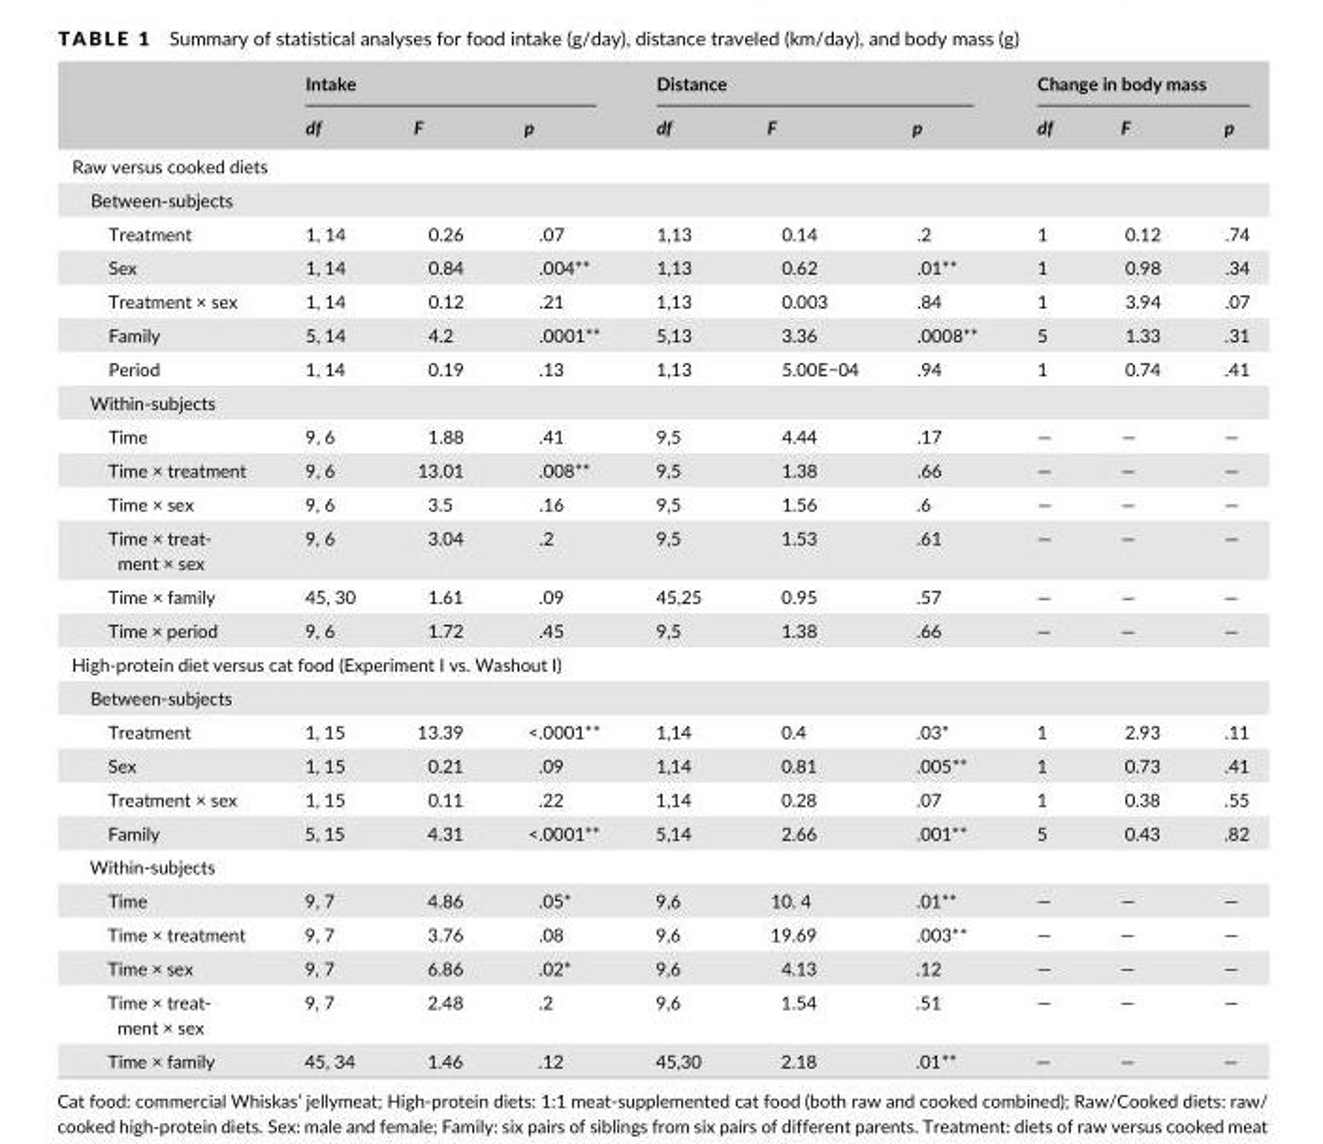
<table><thead><tr><td rowspan="2"></td><td colspan="3">Intake</td><td colspan="3">Distance</td><td colspan="3">Change in body mass</td></tr><tr><td>df</td><td>F</td><td>p</td><td>df</td><td>F</td><td>p</td><td>df</td><td>F</td><td>p</td></tr></thead><tbody><tr><td colspan="10">Raw versus cooked diets</td></tr><tr><td colspan="10">Between- subjects</td></tr><tr><td>Treatment</td><td>1, 14</td><td>0.26</td><td>.07</td><td>1,13</td><td>0.14</td><td>.2</td><td>1</td><td>0.12</td><td>.74</td></tr><tr><td>Sex</td><td>1, 14</td><td>0.84</td><td>.004**</td><td>1,13</td><td>0.62</td><td>.01**</td><td>1</td><td>0.98</td><td>.34</td></tr><tr><td>Treatment × sex</td><td>1, 14</td><td>0.12</td><td>.21</td><td>1,13</td><td>0.003</td><td>.84</td><td>1</td><td>3.94</td><td>.07</td></tr><tr><td>Family</td><td>5, 14</td><td>4.2</td><td>.0001**</td><td>5,13</td><td>3.36</td><td>.0008**</td><td>5</td><td>1.33</td><td>.31</td></tr><tr><td>Period</td><td>1, 14</td><td>0.19</td><td>.13</td><td>1,13</td><td>5.00E−04</td><td>.94</td><td>1</td><td>0.74</td><td>.41</td></tr><tr><td colspan="10">Within- subjects</td></tr><tr><td>Time</td><td>9, 6</td><td>1.88</td><td>.41</td><td>9,5</td><td>4.44</td><td>.17</td><td>—</td><td>—</td><td>—</td></tr><tr><td>Time × treatment</td><td>9, 6</td><td>13.01</td><td>.008**</td><td>9,5</td><td>1.38</td><td>.66</td><td>—</td><td>—</td><td>—</td></tr><tr><td>Time × sex</td><td>9, 6</td><td>3.5</td><td>.16</td><td>9,5</td><td>1.56</td><td>.6</td><td>—</td><td>—</td><td>—</td></tr><tr><td>Time × treat- ment × sex</td><td>9, 6</td><td>3.04</td><td>.2</td><td>9,5</td><td>1.53</td><td>.61</td><td>—</td><td>—</td><td>—</td></tr><tr><td>Time × family</td><td>45, 30</td><td>1.61</td><td>.09</td><td>45,25</td><td>0.95</td><td>.57</td><td>—</td><td>—</td><td>—</td></tr><tr><td>Time × period</td><td>9, 6</td><td>1.72</td><td>.45</td><td>9,5</td><td>1.38</td><td>.66</td><td>—</td><td>—</td><td>—</td></tr><tr><td colspan="10">High- protein diet versus cat food (Experiment I vs. Washout I)</td></tr><tr><td colspan="10">Between- subjects</td></tr><tr><td>Treatment</td><td>1, 15</td><td>13.39</td><td>&lt;.0001**</td><td>1,14</td><td>0.4</td><td>.03*</td><td>1</td><td>2.93</td><td>.11</td></tr><tr><td>Sex</td><td>1, 15</td><td>0.21</td><td>.09</td><td>1,14</td><td>0.81</td><td>.005**</td><td>1</td><td>0.73</td><td>.41</td></tr><tr><td>Treatment × sex</td><td>1, 15</td><td>0.11</td><td>.22</td><td>1,14</td><td>0.28</td><td>.07</td><td>1</td><td>0.38</td><td>.55</td></tr><tr><td>Family</td><td>5, 15</td><td>4.31</td><td>&lt;.0001**</td><td>5,14</td><td>2.66</td><td>.001**</td><td>5</td><td>0.43</td><td>.82</td></tr><tr><td colspan="10">Within- subjects</td></tr><tr><td>Time</td><td>9, 7</td><td>4.86</td><td>.05*</td><td>9,6</td><td>10. 4</td><td>.01**</td><td>—</td><td>—</td><td>—</td></tr><tr><td>Time × treatment</td><td>9, 7</td><td>3.76</td><td>.08</td><td>9,6</td><td>19.69</td><td>.003**</td><td>—</td><td>—</td><td>—</td></tr><tr><td>Time × sex</td><td>9, 7</td><td>6.86</td><td>.02*</td><td>9,6</td><td>4.13</td><td>.12</td><td>—</td><td>—</td><td>—</td></tr><tr><td>Time × treat- ment × sex</td><td>9, 7</td><td>2.48</td><td>.2</td><td>9,6</td><td>1.54</td><td>.51</td><td>—</td><td>—</td><td>—</td></tr><tr><td>Time × family</td><td>45, 34</td><td>1.46</td><td>.12</td><td>45,30</td><td>2.18</td><td>.01**</td><td>—</td><td>—</td><td>—</td></tr></tbody></table>